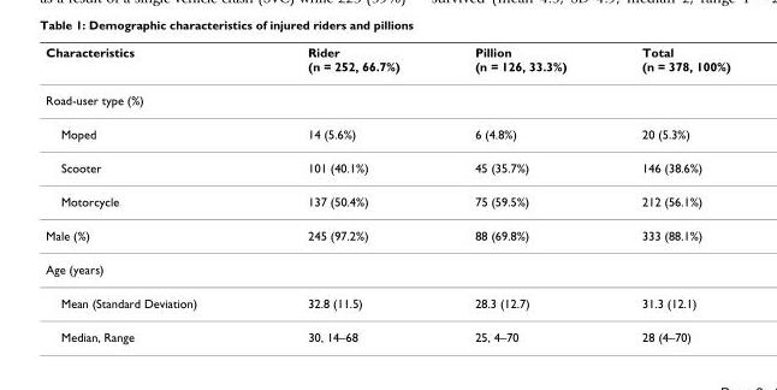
<table><thead><tr><td>Characteristics</td><td>Rider (n = 252, 66.7%)</td><td>Pillion (n = 126, 33.3%)</td><td>Total (n = 378, 100%)</td></tr></thead><tbody><tr><td colspan="4">Road-user type (%)</td></tr><tr><td>Moped</td><td>14 (5.6%)</td><td>6 (4.8%)</td><td>20 (5.3%)</td></tr><tr><td>Scooter</td><td>101 (40.1%)</td><td>45 (35.7%)</td><td>146 (38.6%)</td></tr><tr><td>Motorcycle</td><td>137 (50.4%)</td><td>75 (59.5%)</td><td>212 (56.1%)</td></tr><tr><td>Male (%)</td><td>245 (97.2%)</td><td>88 (69.8%)</td><td>333 (88.1%)</td></tr><tr><td colspan="4">Age (years)</td></tr><tr><td>Mean (Standard Deviation)</td><td>32.8 (11.5)</td><td>28.3 (12.7)</td><td>31.3 (12.1)</td></tr><tr><td>Median, Range</td><td>30, 14–68</td><td>25, 4–70</td><td>28 (4–70)</td></tr></tbody></table>